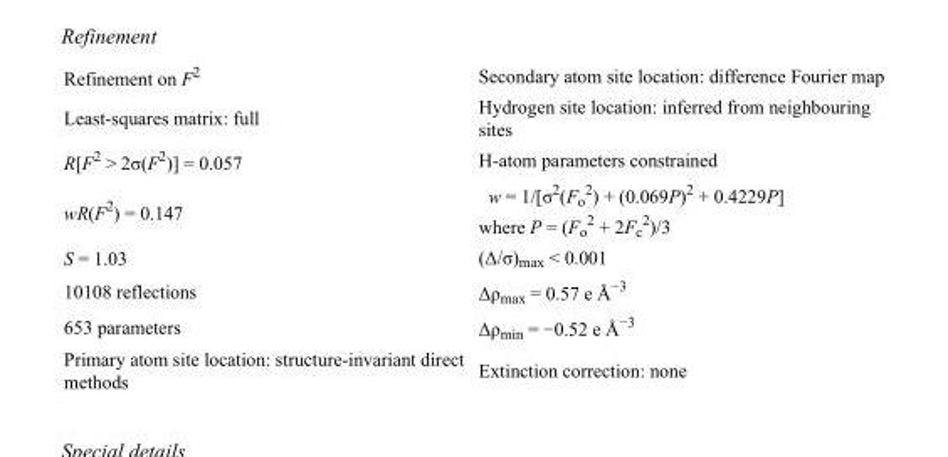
<table><tbody><tr><td>Refinement on F<sup>2</sup></td><td>Secondary atom site location: difference Fourier map</td></tr><tr><td>Least-squares matrix: full</td><td>Hydrogen site location: inferred from neighbouring sites</td></tr><tr><td>R[F<sup>2</sup> &gt; 2σ(F<sup>2</sup>)] = 0.057</td><td>H-atom parameters constrained</td></tr><tr><td>wR(F<sup>2</sup>) = 0.147</td><td>w = 1/[σ<sup>2</sup>(F<sub>o</sub> <sup>2</sup>) + (0.069P)<sup>2</sup> + 0.4229P] where P = (F<sub>o</sub> <sup>2</sup> + 2F<sub>c</sub> <sup>2</sup>)/3</td></tr><tr><td>S = 1.03</td><td>(Δ/σ)<sub>max</sub> &lt; 0.001</td></tr><tr><td>10108 reflections</td><td>Δρ<sub>max</sub> = 0.57 e Å<sup>−3</sup></td></tr><tr><td>653 parameters</td><td>Δρ<sub>min</sub> = −0.52 e Å<sup>−3</sup></td></tr><tr><td>Primary atom site location: structure-invariant direct methods</td><td>Extinction correction: none</td></tr></tbody></table>